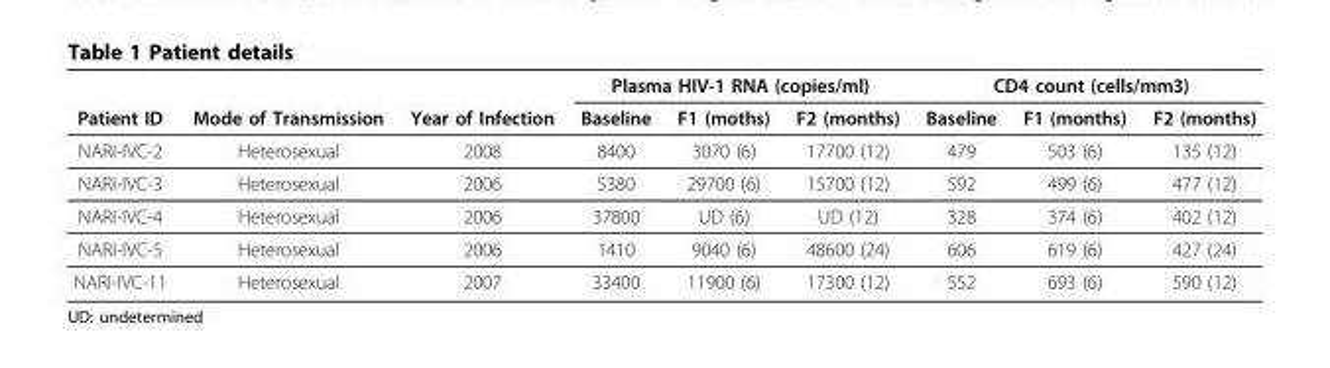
<table><thead><tr><td rowspan="2">Patient ID</td><td rowspan="2">Mode of Transmission</td><td rowspan="2">Year of Infection</td><td colspan="3">Plasma HIV-1 RNA (copies/ml)</td><td colspan="3">CD4 count (cells/mm3)</td></tr><tr><td>Baseline</td><td>F1 (moths)</td><td>F2 (months)</td><td>Baseline</td><td>F1 (months)</td><td>F2 (months)</td></tr></thead><tbody><tr><td>NARI-IVC-2</td><td>Heterosexual</td><td>2008</td><td>8400</td><td>3070 (6)</td><td>17700 (12)</td><td>479</td><td>503 (6)</td><td>135 (12)</td></tr><tr><td>NARI-IVC-3</td><td>Heterosexual</td><td>2006</td><td>5380</td><td>29700 (6)</td><td>15700 (12)</td><td>592</td><td>499 (6)</td><td>477 (12)</td></tr><tr><td>NARI-IVC-4</td><td>Heterosexual</td><td>2006</td><td>37800</td><td>UD (6)</td><td>UD (12)</td><td>328</td><td>374 (6)</td><td>402 (12)</td></tr><tr><td>NARI-IVC-5</td><td>Heterosexual</td><td>2006</td><td>1410</td><td>9040 (6)</td><td>48600 (24)</td><td>606</td><td>619 (6)</td><td>427 (24)</td></tr><tr><td>NARI-IVC-11</td><td>Heterosexual</td><td>2007</td><td>33400</td><td>11900 (6)</td><td>17300 (12)</td><td>552</td><td>693 (6)</td><td>590 (12)</td></tr></tbody></table>